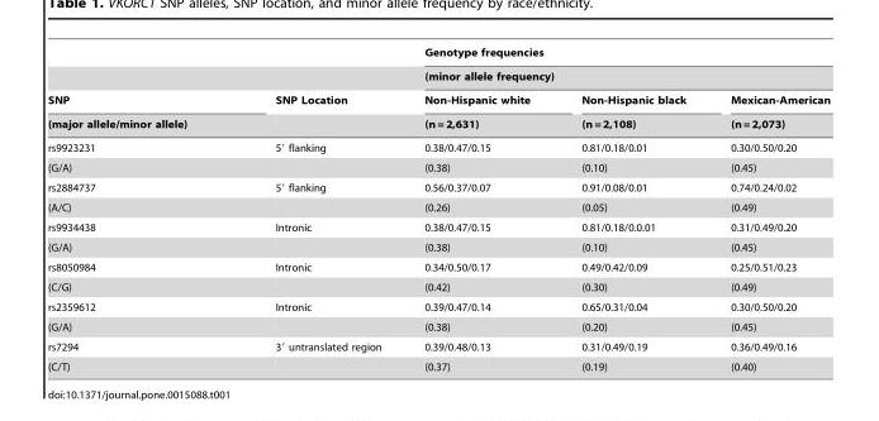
<table><thead><tr><td rowspan="4">SNP (major allele/minor allele)</td><td rowspan="4">SNP Location</td><td rowspan="2" colspan="3">Genotype frequencies (minor allele frequency)</td></tr><tr></tr><tr><td rowspan="2">Non-Hispanic white (n = 2,631)</td><td rowspan="2">Non-Hispanic black (n = 2,108)</td><td rowspan="2">Mexican-American (n = 2,073)</td></tr><tr></tr></thead><tbody><tr><td>rs9923231</td><td>5′ flanking</td><td>0.38/0.47/0.15</td><td>0.81/0.18/0.01</td><td>0.30/0.50/0.20</td></tr><tr><td>(G/A)</td><td></td><td>(0.38)</td><td>(0.10)</td><td>(0.45)</td></tr><tr><td>rs2884737</td><td>5′ flanking</td><td>0.56/0.37/0.07</td><td>0.91/0.08/0.01</td><td>0.74/0.24/0.02</td></tr><tr><td>(A/C)</td><td></td><td>(0.26)</td><td>(0.05)</td><td>(0.49)</td></tr><tr><td>rs9934438</td><td>Intronic</td><td>0.38/0.47/0.15</td><td>0.81/0.18/0.0.01</td><td>0.31/0.49/0.20</td></tr><tr><td>(G/A)</td><td></td><td>(0.38)</td><td>(0.10)</td><td>(0.45)</td></tr><tr><td>rs8050984</td><td>Intronic</td><td>0.34/0.50/0.17</td><td>0.49/0.42/0.09</td><td>0.25/0.51/0.23</td></tr><tr><td>(C/G)</td><td></td><td>(0.42)</td><td>(0.30)</td><td>(0.49)</td></tr><tr><td>rs2359612</td><td>Intronic</td><td>0.39/0.47/0.14</td><td>0.65/0.31/0.04</td><td>0.30/0.50/0.20</td></tr><tr><td>(G/A)</td><td></td><td>(0.38)</td><td>(0.20)</td><td>(0.45)</td></tr><tr><td>rs7294</td><td>3′ untranslated region</td><td>0.39/0.48/0.13</td><td>0.31/0.49/0.19</td><td>0.36/0.49/0.16</td></tr><tr><td>(C/T)</td><td></td><td>(0.37)</td><td>(0.19)</td><td>(0.40)</td></tr></tbody></table>